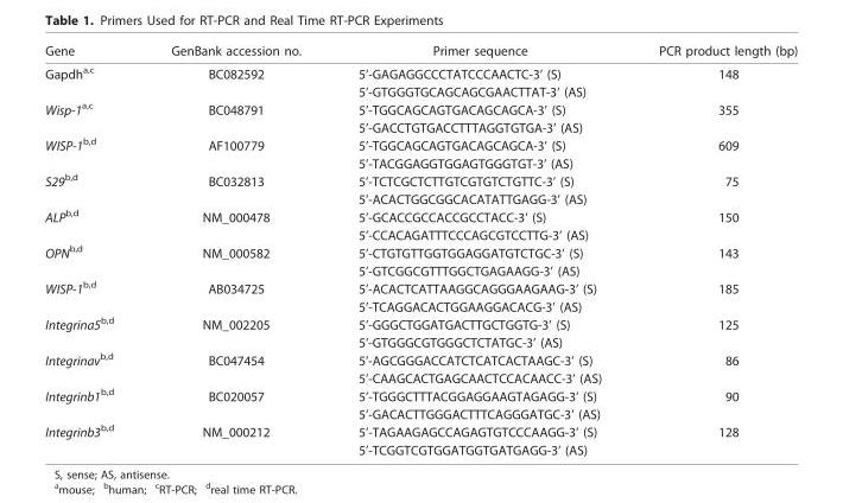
<table><thead><tr><td>Gene</td><td>GenBank accession no.</td><td>Primer sequence</td><td>PCR product length (bp)</td></tr></thead><tbody><tr><td rowspan="2">Gapdh<sup>a,c</sup></td><td>BC082592</td><td>5’-GAGAGGCCCTATCCCAACTC-3’ (S)</td><td>148</td></tr><tr><td></td><td>5’-GTGGGTGCAGCAGCGAACTTAT-3’ (AS)</td><td></td></tr><tr><td rowspan="2">Wisp-1<sup>a,c</sup></td><td>BC048791</td><td>5’-TGGCAGCAGTGACAGCAGCA-3’ (S)</td><td>355</td></tr><tr><td></td><td>5’-GACCTGTGACCTTTAGGTGTGA-3’ (AS)</td><td></td></tr><tr><td rowspan="2">WISP-1<sup>b,d</sup></td><td>AF100779</td><td>5’-TGGCAGCAGTGACAGCAGCA-3’ (S)</td><td>609</td></tr><tr><td></td><td>5’-TACGGAGGTGGAGTGGGTGT-3’ (AS)</td><td></td></tr><tr><td rowspan="2">S29<sup>b,d</sup></td><td>BC032813</td><td>5’-TCTCGCTCTTGTCGTGTCTGTTC-3’ (S)</td><td>75</td></tr><tr><td></td><td>5’-ACACTGGCGGCACATATTGAGG-3’ (AS)</td><td></td></tr><tr><td rowspan="2">ALP<sup>b,d</sup></td><td>NM_000478</td><td>5’-GCACCGCCACCGCCTACC-3’ (S)</td><td>150</td></tr><tr><td></td><td>5’-CCACAGATTTCCCAGCGTCCTTG-3’ (AS)</td><td></td></tr><tr><td rowspan="2">OPN<sup>b,d</sup></td><td>NM_000582</td><td>5’-CTGTGTTGGTGGAGGATGTCTGC-3’ (S)</td><td>143</td></tr><tr><td></td><td>5’-GTCGGCGTTTGGCTGAGAAGG-3’ (AS)</td><td></td></tr><tr><td rowspan="2">WISP-1<sup>b,d</sup></td><td>AB034725</td><td>5’-ACACTCATTAAGGCAGGGAAGAAG-3’ (S)</td><td>185</td></tr><tr><td></td><td>5’-TCAGGACACTGGAAGGACACG-3’ (AS)</td><td></td></tr><tr><td rowspan="2">Integrina5<sup>b,d</sup></td><td>NM_002205</td><td>5’-GGGCTGGATGACTTGCTGGTG-3’ (S)</td><td>125</td></tr><tr><td></td><td>5’-GTGGGCGTGGGCTCTATGC-3’ (AS)</td><td></td></tr><tr><td rowspan="2">Integrinav<sup>b,d</sup></td><td>BC047454</td><td>5’-AGCGGGACCATCTCATCACTAAGC-3’ (S)</td><td>86</td></tr><tr><td></td><td>5’-CAAGCACTGAGCAACTCCACAACC-3’ (AS)</td><td></td></tr><tr><td rowspan="2">Integrinb1<sup>b,d</sup></td><td>BC020057</td><td>5’-TGGGCTTTACGGAGGAAGTAGAGG-3’ (S)</td><td>90</td></tr><tr><td></td><td>5’-GACACTTGGGACTTTCAGGGATGC-3’ (AS)</td><td></td></tr><tr><td rowspan="2">Integrinb3<sup>b,d</sup></td><td>NM_000212</td><td>5’-TAGAAGAGCCAGAGTGTCCCAAGG-3’ (S)</td><td>128</td></tr><tr><td></td><td>5’-TCGGTCGTGGATGGTGATGAGG-3’ (AS)</td><td></td></tr></tbody></table>